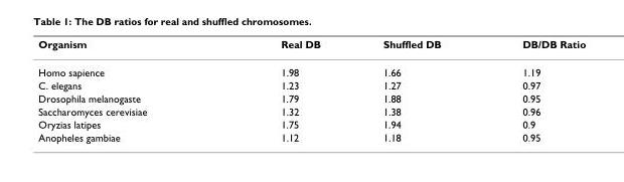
<table><thead><tr><td>Organism</td><td>Real DB</td><td>Shuffled DB</td><td>DB/DB Ratio</td></tr></thead><tbody><tr><td>Homo sapience</td><td>1.98</td><td>1.66</td><td>1.19</td></tr><tr><td>C. elegans</td><td>1.23</td><td>1.27</td><td>0.97</td></tr><tr><td>Drosophila melanogaste</td><td>1.79</td><td>1.88</td><td>0.95</td></tr><tr><td>Saccharomyces cerevisiae</td><td>1.32</td><td>1.38</td><td>0.96</td></tr><tr><td>Oryzias latipes</td><td>1.75</td><td>1.94</td><td>0.9</td></tr><tr><td>Anopheles gambiae</td><td>1.12</td><td>1.18</td><td>0.95</td></tr></tbody></table>